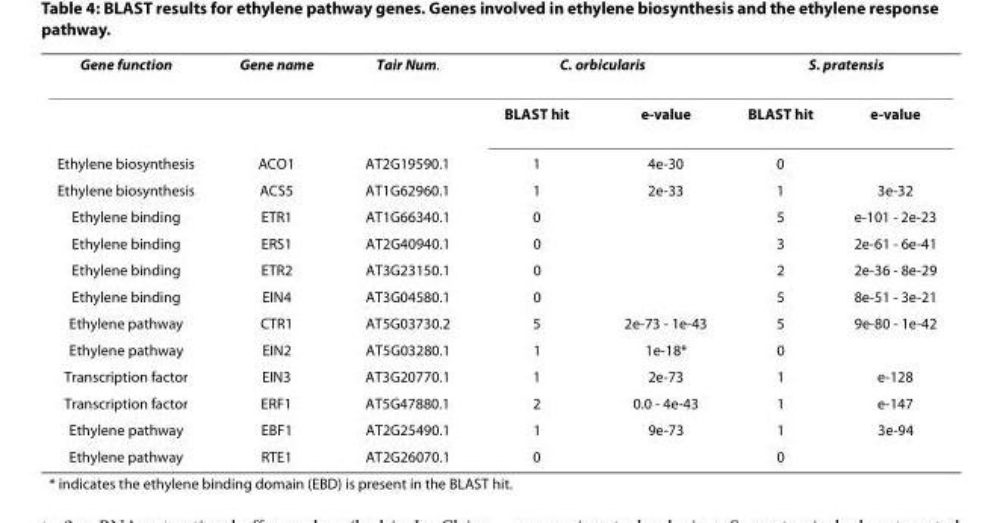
<table><thead><tr><td rowspan="2">Gene function</td><td rowspan="2">Gene name</td><td rowspan="2">Tair Num.</td><td colspan="2">C. orbicularis</td><td colspan="2">S. pratensis</td></tr><tr><td>BLAST hit</td><td>e-value</td><td>BLAST hit</td><td>e-value</td></tr></thead><tbody><tr><td>Ethylene biosynthesis</td><td>ACO1</td><td>AT2G19590.1</td><td>1</td><td>4e-30</td><td>0</td><td></td></tr><tr><td>Ethylene biosynthesis</td><td>ACS5</td><td>AT1G62960.1</td><td>1</td><td>2e-33</td><td>1</td><td>3e-32</td></tr><tr><td>Ethylene binding</td><td>ETR1</td><td>AT1G66340.1</td><td>0</td><td></td><td>5</td><td>e-101 - 2e-23</td></tr><tr><td>Ethylene binding</td><td>ERS1</td><td>AT2G40940.1</td><td>0</td><td></td><td>3</td><td>2e-61 - 6e-41</td></tr><tr><td>Ethylene binding</td><td>ETR2</td><td>AT3G23150.1</td><td>0</td><td></td><td>2</td><td>2e-36 - 8e-29</td></tr><tr><td>Ethylene binding</td><td>EIN4</td><td>AT3G04580.1</td><td>0</td><td></td><td>5</td><td>8e-51 - 3e-21</td></tr><tr><td>Ethylene pathway</td><td>CTR1</td><td>AT5G03730.2</td><td>5</td><td>2e-73 - 1e-43</td><td>5</td><td>9e-80 - 1e-42</td></tr><tr><td>Ethylene pathway</td><td>EIN2</td><td>AT5G03280.1</td><td>1</td><td>1e-18*</td><td>0</td><td></td></tr><tr><td>Transcription factor</td><td>EIN3</td><td>AT3G20770.1</td><td>1</td><td>2e-73</td><td>1</td><td>e-128</td></tr><tr><td>Transcription factor</td><td>ERF1</td><td>AT5G47880.1</td><td>2</td><td>0.0 - 4e-43</td><td>1</td><td>e-147</td></tr><tr><td>Ethylene pathway</td><td>EBF1</td><td>AT2G25490.1</td><td>1</td><td>9e-73</td><td>1</td><td>3e-94</td></tr><tr><td>Ethylene pathway</td><td>RTE1</td><td>AT2G26070.1</td><td>0</td><td></td><td>0</td><td></td></tr></tbody></table>